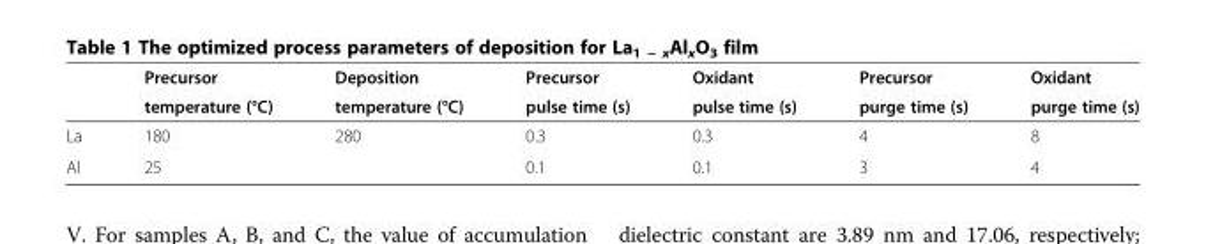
<table><thead><tr><td rowspan="2"></td><td rowspan="2">Precursor temperature (°C)</td><td rowspan="2">Deposition temperature (°C)</td><td rowspan="2">Precursor pulse time (s)</td><td rowspan="2">Oxidant pulse time (s)</td><td rowspan="2">Precursor purge time (s)</td><td rowspan="2">Oxidant purge time (s)</td></tr><tr></tr></thead><tbody><tr><td>La</td><td>180</td><td rowspan="2">280</td><td>0.3</td><td>0.3</td><td>4</td><td>8</td></tr><tr><td>Al</td><td>25</td><td>0.1</td><td>0.1</td><td>3</td><td>4</td></tr></tbody></table>